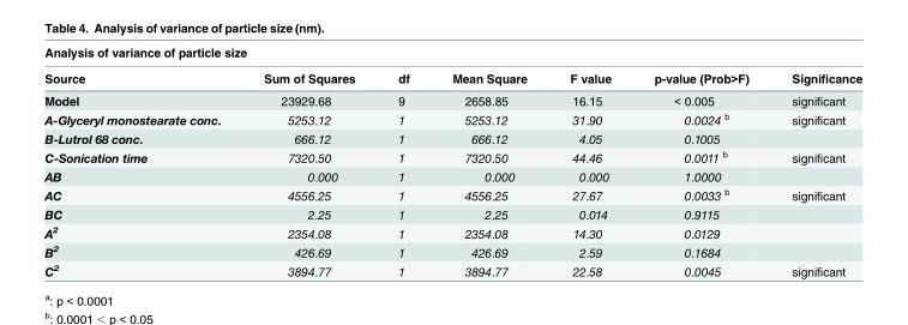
<table><thead><tr><td colspan="7">Analysis of variance of particle size</td></tr><tr><td>Source</td><td>Sum of Squares</td><td>df</td><td>Mean Square</td><td>F value</td><td>p-value (Prob&gt;F)</td><td>Significance</td></tr></thead><tbody><tr><td>Model</td><td>23929.68</td><td>9</td><td>2658.85</td><td>16.15</td><td>&lt; 0.005</td><td>significant</td></tr><tr><td>A-Glyceryl monostearate conc.</td><td>5253.12</td><td>1</td><td>5253.12</td><td>31.90</td><td>0.0024 <sup>b</sup></td><td>significant</td></tr><tr><td>B-Lutrol 68 conc.</td><td>666.12</td><td>1</td><td>666.12</td><td>4.05</td><td>0.1005</td><td></td></tr><tr><td>C-Sonication time</td><td>7320.50</td><td>1</td><td>7320.50</td><td>44.46</td><td>0.0011 <sup>b</sup></td><td>significant</td></tr><tr><td>AB</td><td>0.000</td><td>1</td><td>0.000</td><td>0.000</td><td>1.0000</td><td></td></tr><tr><td>AC</td><td>4556.25</td><td>1</td><td>4556.25</td><td>27.67</td><td>0.0033 <sup>b</sup></td><td>significant</td></tr><tr><td>BC</td><td>2.25</td><td>1</td><td>2.25</td><td>0.014</td><td>0.9115</td><td></td></tr><tr><td>A<sup>2</sup></td><td>2354.08</td><td>1</td><td>2354.08</td><td>14.30</td><td>0.0129</td><td></td></tr><tr><td>B<sup>2</sup></td><td>426.69</td><td>1</td><td>426.69</td><td>2.59</td><td>0.1684</td><td></td></tr><tr><td>C<sup>2</sup></td><td>3894.77</td><td>1</td><td>3894.77</td><td>22.58</td><td>0.0045</td><td>significant</td></tr></tbody></table>